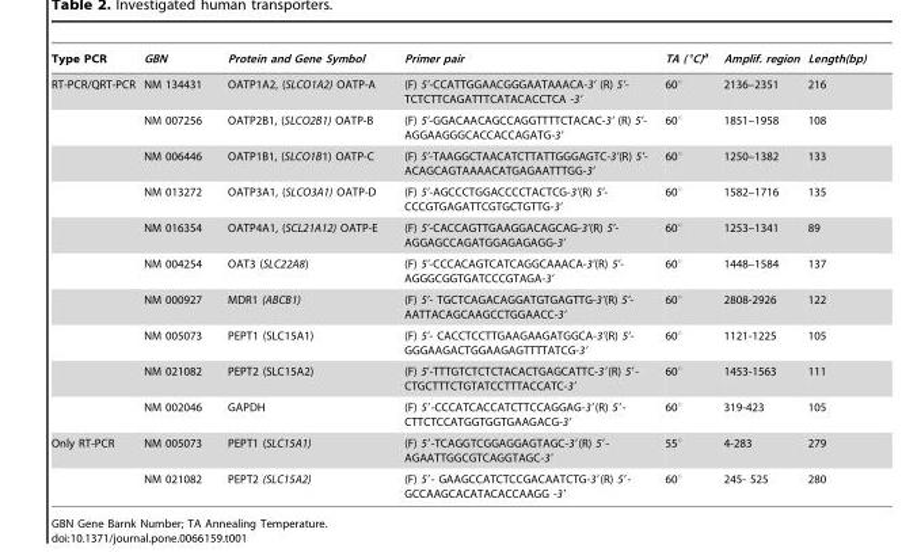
<table><thead><tr><td>Type PCR</td><td>GBN</td><td>Protein and Gene Symbol</td><td>Primer pair</td><td>TA (°C)<sup>a</sup></td><td>Amplif. region</td><td>Length(bp)</td></tr></thead><tbody><tr><td rowspan="10">RT-PCR/QRT-PCR</td><td>NM 134431</td><td>OATP1A2, (SLCO1A2) OATP-A</td><td>(F) 5’-CCATTGGAACGGGAATAAACA-3’ (R) 5’- TCTCTTCAGATTTCATACACCTCA -3’</td><td>60°</td><td>2136–2351</td><td>216</td></tr><tr><td>NM 007256</td><td>OATP2B1, (SLCO2B1) OATP-B</td><td>(F) 5’-GGACAACAGCCAGGTTTTCTACAC-3’ (R) 5’- AGGAAGGGCACCACCAGATG-3’</td><td>60°</td><td>1851–1958</td><td>108</td></tr><tr><td>NM 006446</td><td>OATP1B1, (SLCO1B1) OATP-C</td><td>(F) 5’-TAAGGCTAACATCTTATTGGGAGTC-3’(R) 5’- ACAGCAGTAAAACATGAGAATTTGG-3’</td><td>60°</td><td>1250–1382</td><td>133</td></tr><tr><td>NM 013272</td><td>OATP3A1, (SLCO3A1) OATP-D</td><td>(F) 5’-AGCCCTGGACCCCTACTCG-3’(R) 5’- CCCGTGAGATTCGTGCTGTTG-3’</td><td>60°</td><td>1582–1716</td><td>135</td></tr><tr><td>NM 016354</td><td>OATP4A1, (SCL21A12) OATP-E</td><td>(F) 5’-CACCAGTTGAAGGACAGCAG-3’(R) 5’- AGGAGCCAGATGGAGAGAGG-3’</td><td>60°</td><td>1253–1341</td><td>89</td></tr><tr><td>NM 004254</td><td>OAT3 (SLC22A8)</td><td>(F) 5’-CCCACAGTCATCAGGCAAACA-3’(R) 5’- AGGGCGGTGATCCCGTAGA-3’</td><td>60°</td><td>1448–1584</td><td>137</td></tr><tr><td>NM 000927</td><td>MDR1 (ABCB1)</td><td>(F) 5’- TGCTCAGACAGGATGTGAGTTG-3’(R) 5’- AATTACAGCAAGCCTGGAACC-3’</td><td>60°</td><td>2808-2926</td><td>122</td></tr><tr><td>NM 005073</td><td>PEPT1 (SLC15A1)</td><td>(F) 5’- CACCTCCTTGAAGAAGATGGCA-3’(R) 5’- GGGAAGACTGGAAGAGTTTTATCG-3’</td><td>60°</td><td>1121-1225</td><td>105</td></tr><tr><td>NM 021082</td><td>PEPT2 (SLC15A2)</td><td>(F) 5’-TTTGTCTCTCTACACTGAGCATTC-3′(R) 5′- CTGCTTTCTGTATCCTTTACCATC-3′</td><td>60°</td><td>1453-1563</td><td>111</td></tr><tr><td>NM 002046</td><td>GAPDH</td><td>(F) 5′-CCCATCACCATCTTCCAGGAG-3′(R) 5′- CTTCTCCATGGTGGTGAAGACG-3′</td><td>60°</td><td>319-423</td><td>105</td></tr><tr><td rowspan="2">Only RT-PCR</td><td>NM 005073</td><td>PEPT1 (SLC15A1)</td><td>(F) 5′-TCAGGTCGGAGGAGTAGC-3′(R) 5′- AGAATTGGCGTCAGGTAGC-3′</td><td>55°</td><td>4-283</td><td>279</td></tr><tr><td>NM 021082</td><td>PEPT2 (SLC15A2)</td><td>(F) 5′- GAAGCCATCTCCGACAATCTG-3′(R) 5′- GCCAAGCACATACACCAAGG -3′</td><td>60°</td><td>245- 525</td><td>280</td></tr></tbody></table>